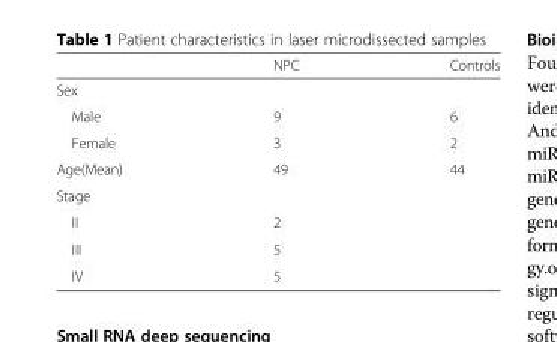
<table><thead><tr><td></td><td>NPC</td><td>Controls</td></tr></thead><tbody><tr><td colspan="3">Sex</td></tr><tr><td>Male</td><td>9</td><td>6</td></tr><tr><td>Female</td><td>3</td><td>2</td></tr><tr><td>Age(Mean)</td><td>49</td><td>44</td></tr><tr><td colspan="3">Stage</td></tr><tr><td>II</td><td>2</td><td></td></tr><tr><td>III</td><td>5</td><td></td></tr><tr><td>IV</td><td>5</td><td></td></tr></tbody></table>